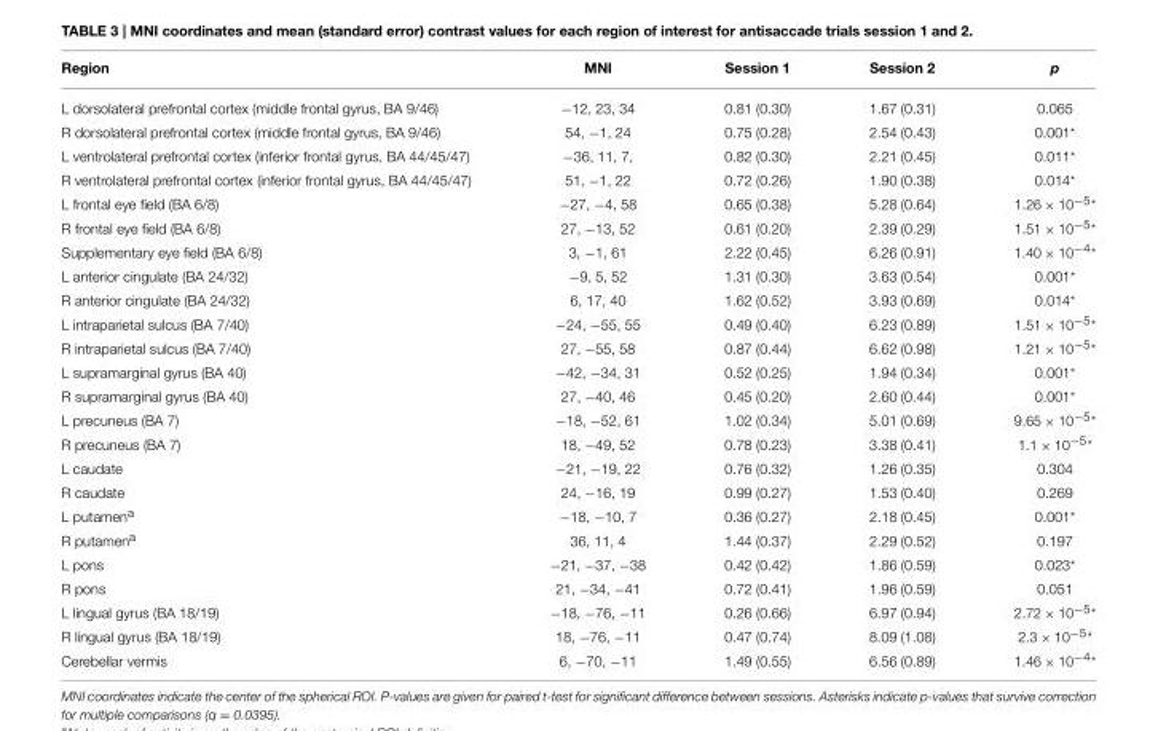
<table><thead><tr><td>Region</td><td>MNI</td><td>Session 1</td><td>Session 2</td><td>p</td></tr></thead><tbody><tr><td>L dorsolateral prefrontal cortex (middle frontal gyrus, BA 9/46)</td><td>−12, 23, 34</td><td>0.81 (0.30)</td><td>1.67 (0.31)</td><td>0.065</td></tr><tr><td>R dorsolateral prefrontal cortex (middle frontal gyrus, BA 9/46)</td><td>54, −1, 24</td><td>0.75 (0.28)</td><td>2.54 (0.43)</td><td>0.001*</td></tr><tr><td>L ventrolateral prefrontal cortex (inferior frontal gyrus, BA 44/45/47)</td><td>−36, 11, 7,</td><td>0.82 (0.30)</td><td>2.21 (0.45)</td><td>0.011*</td></tr><tr><td>R ventrolateral prefrontal cortex (inferior frontal gyrus, BA 44/45/47)</td><td>51, −1, 22</td><td>0.72 (0.26)</td><td>1.90 (0.38)</td><td>0.014*</td></tr><tr><td>L frontal eye field (BA 6/8)</td><td>−27, −4, 58</td><td>0.65 (0.38)</td><td>5.28 (0.64)</td><td>1.26 × 10<sup>−5*</sup></td></tr><tr><td>R frontal eye field (BA 6/8)</td><td>27, −13, 52</td><td>0.61 (0.20)</td><td>2.39 (0.29)</td><td>1.51 × 10<sup>−5*</sup></td></tr><tr><td>Supplementary eye field (BA 6/8)</td><td>3, −1, 61</td><td>2.22 (0.45)</td><td>6.26 (0.91)</td><td>1.40 × 10<sup>−4*</sup></td></tr><tr><td>L anterior cingulate (BA 24/32)</td><td>−9, 5, 52</td><td>1.31 (0.30)</td><td>3.63 (0.54)</td><td>0.001*</td></tr><tr><td>R anterior cingulate (BA 24/32)</td><td>6, 17, 40</td><td>1.62 (0.52)</td><td>3.93 (0.69)</td><td>0.014*</td></tr><tr><td>L intraparietal sulcus (BA 7/40)</td><td>−24, −55, 55</td><td>0.49 (0.40)</td><td>6.23 (0.89)</td><td>1.51 × 10<sup>−5*</sup></td></tr><tr><td>R intraparietal sulcus (BA 7/40)</td><td>27, −55, 58</td><td>0.87 (0.44)</td><td>6.62 (0.98)</td><td>1.21 × 10<sup>−5*</sup></td></tr><tr><td>L supramarginal gyrus (BA 40)</td><td>−42, −34, 31</td><td>0.52 (0.25)</td><td>1.94 (0.34)</td><td>0.001*</td></tr><tr><td>R supramarginal gyrus (BA 40)</td><td>27, −40, 46</td><td>0.45 (0.20)</td><td>2.60 (0.44)</td><td>0.001*</td></tr><tr><td>L precuneus (BA 7)</td><td>−18, −52, 61</td><td>1.02 (0.34)</td><td>5.01 (0.69)</td><td>9.65 × 10<sup>−5*</sup></td></tr><tr><td>R precuneus (BA 7)</td><td>18, −49, 52</td><td>0.78 (0.23)</td><td>3.38 (0.41)</td><td>1.1 × 10<sup>−5*</sup></td></tr><tr><td>L caudate</td><td>−21, −19, 22</td><td>0.76 (0.32)</td><td>1.26 (0.35)</td><td>0.304</td></tr><tr><td>R caudate</td><td>24, −16, 19</td><td>0.99 (0.27)</td><td>1.53 (0.40)</td><td>0.269</td></tr><tr><td>L putamen<sup>a</sup></td><td>−18, −10, 7</td><td>0.36 (0.27)</td><td>2.18 (0.45)</td><td>0.001*</td></tr><tr><td>R putamen<sup>a</sup></td><td>36, 11, 4</td><td>1.44 (0.37)</td><td>2.29 (0.52)</td><td>0.197</td></tr><tr><td>L pons</td><td>−21, −37, −38</td><td>0.42 (0.42)</td><td>1.86 (0.59)</td><td>0.023*</td></tr><tr><td>R pons</td><td>21, −34, −41</td><td>0.72 (0.41)</td><td>1.96 (0.59)</td><td>0.051</td></tr><tr><td>L lingual gyrus (BA 18/19)</td><td>−18, −76, −11</td><td>0.26 (0.66)</td><td>6.97 (0.94)</td><td>2.72 × 10<sup>−5*</sup></td></tr><tr><td>R lingual gyrus (BA 18/19)</td><td>18, −76, −11</td><td>0.47 (0.74)</td><td>8.09 (1.08)</td><td>2.3 × 10<sup>−5*</sup></td></tr><tr><td>Cerebellar vermis</td><td>6, −70, −11</td><td>1.49 (0.55)</td><td>6.56 (0.89)</td><td>1.46 × 10<sup>−4*</sup></td></tr></tbody></table>